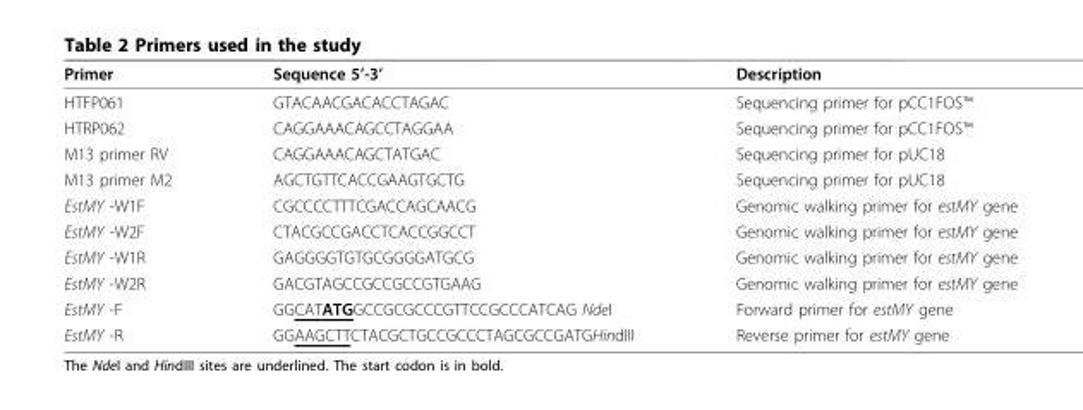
<table><thead><tr><td>Primer</td><td>Sequence 5’-3’</td><td>Description</td></tr></thead><tbody><tr><td>HTFP061</td><td>GTACAACGACACCTAGAC</td><td>Sequencing primer for pCC1FOS™</td></tr><tr><td>HTRP062</td><td>CAGGAAACAGCCTAGGAA</td><td>Sequencing primer for pCC1FOS™</td></tr><tr><td>M13 primer RV</td><td>CAGGAAACAGCTATGAC</td><td>Sequencing primer for pUC18</td></tr><tr><td>M13 primer M2</td><td>AGCTGTTCACCGAAGTGCTG</td><td>Sequencing primer for pUC18</td></tr><tr><td>EstMY -W1F</td><td>CGCCCCTTTCGACCAGCAACG</td><td>Genomic walking primer for estMY gene</td></tr><tr><td>EstMY -W2F</td><td>CTACGCCGACCTCACCGGCCT</td><td>Genomic walking primer for estMY gene</td></tr><tr><td>EstMY -W1R</td><td>GAGGGGTGTGCGGGGATGCG</td><td>Genomic walking primer for estMY gene</td></tr><tr><td>EstMY -W2R</td><td>GACGTAGCCGCCGCCGTGAAG</td><td>Genomic walking primer for estMY gene</td></tr><tr><td>EstMY -F</td><td>GGCATATGGCCGCGCCCGTTCCGCCCATCAG NdeI</td><td>Forward primer for estMY gene</td></tr><tr><td>EstMY -R</td><td>GGAAGCTTCTACGCTGCCGCCCTAGCGCCGATGHindIII</td><td>Reverse primer for estMY gene</td></tr></tbody></table>